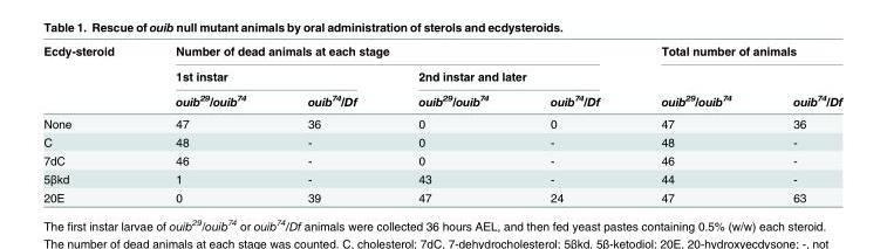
<table><thead><tr><td rowspan="3">Ecdy-steroid</td><td colspan="4">Number of dead animals at each stage</td><td colspan="2">Total number of animals</td></tr><tr><td colspan="2">1st instar</td><td colspan="2">2nd instar and later</td><td rowspan="2">ouib<sup>29</sup>/ouib<sup>74</sup></td><td rowspan="2">ouib<sup>74</sup>/Df</td></tr><tr><td>ouib<sup>29</sup>/ouib<sup>74</sup></td><td>ouib<sup>74</sup>/Df</td><td>ouib<sup>29</sup>/ouib<sup>74</sup></td><td>ouib<sup>74</sup>/Df</td></tr></thead><tbody><tr><td>None</td><td>47</td><td>36</td><td>0</td><td>0</td><td>47</td><td>36</td></tr><tr><td>C</td><td>48</td><td>-</td><td>0</td><td>-</td><td>48</td><td>-</td></tr><tr><td>7dC</td><td>46</td><td>-</td><td>0</td><td>-</td><td>46</td><td>-</td></tr><tr><td>5βkd</td><td>1</td><td>-</td><td>43</td><td>-</td><td>44</td><td>-</td></tr><tr><td>20E</td><td>0</td><td>39</td><td>47</td><td>24</td><td>47</td><td>63</td></tr></tbody></table>